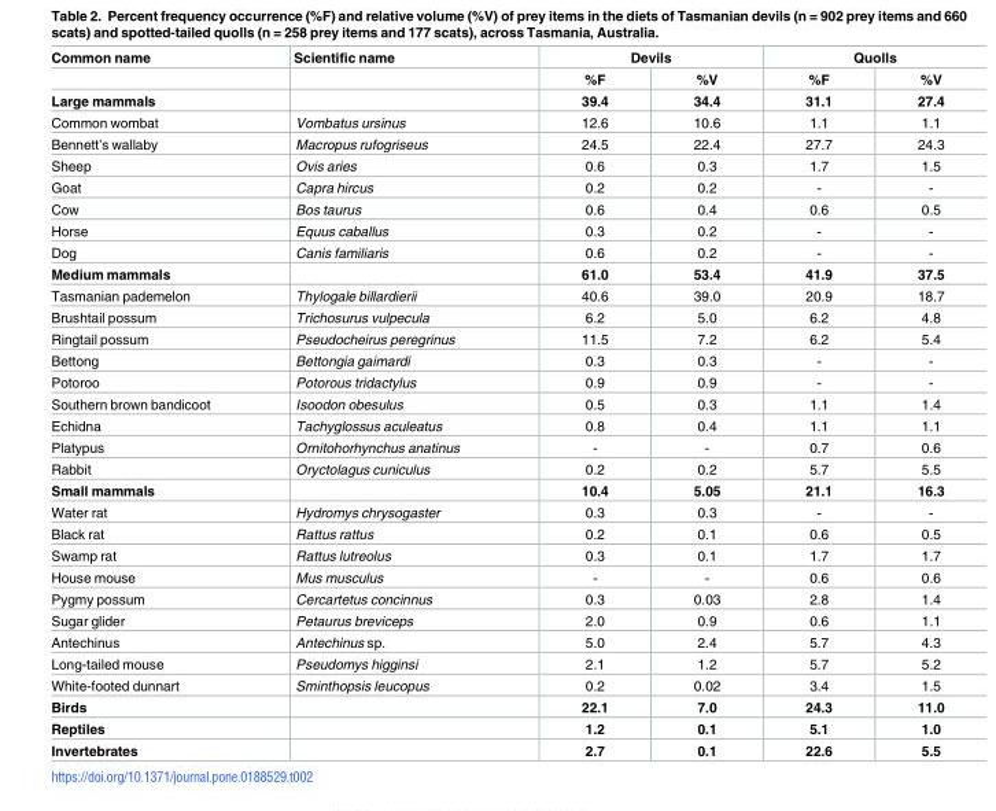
<table><thead><tr><td rowspan="2">Common name</td><td rowspan="2">Scientific name</td><td colspan="2">Devils</td><td colspan="2">Quolls</td></tr><tr><td>%F</td><td>%V</td><td>%F</td><td>%V</td></tr></thead><tbody><tr><td>Large mammals</td><td></td><td>39.4</td><td>34.4</td><td>31.1</td><td>27.4</td></tr><tr><td>Common wombat</td><td>Vombatus ursinus</td><td>12.6</td><td>10.6</td><td>1.1</td><td>1.1</td></tr><tr><td>Bennett’s wallaby</td><td>Macropus rufogriseus</td><td>24.5</td><td>22.4</td><td>27.7</td><td>24.3</td></tr><tr><td>Sheep</td><td>Ovis aries</td><td>0.6</td><td>0.3</td><td>1.7</td><td>1.5</td></tr><tr><td>Goat</td><td>Capra hircus</td><td>0.2</td><td>0.2</td><td>-</td><td>-</td></tr><tr><td>Cow</td><td>Bos taurus</td><td>0.6</td><td>0.4</td><td>0.6</td><td>0.5</td></tr><tr><td>Horse</td><td>Equus caballus</td><td>0.3</td><td>0.2</td><td>-</td><td>-</td></tr><tr><td>Dog</td><td>Canis familiaris</td><td>0.6</td><td>0.2</td><td>-</td><td>-</td></tr><tr><td>Medium mammals</td><td></td><td>61.0</td><td>53.4</td><td>41.9</td><td>37.5</td></tr><tr><td>Tasmanian pademelon</td><td>Thylogale billardierii</td><td>40.6</td><td>39.0</td><td>20.9</td><td>18.7</td></tr><tr><td>Brushtail possum</td><td>Trichosurus vulpecula</td><td>6.2</td><td>5.0</td><td>6.2</td><td>4.8</td></tr><tr><td>Ringtail possum</td><td>Pseudocheirus peregrinus</td><td>11.5</td><td>7.2</td><td>6.2</td><td>5.4</td></tr><tr><td>Bettong</td><td>Bettongia gaimardi</td><td>0.3</td><td>0.3</td><td>-</td><td>-</td></tr><tr><td>Potoroo</td><td>Potorous tridactylus</td><td>0.9</td><td>0.9</td><td>-</td><td>-</td></tr><tr><td>Southern brown bandicoot</td><td>Isoodon obesulus</td><td>0.5</td><td>0.3</td><td>1.1</td><td>1.4</td></tr><tr><td>Echidna</td><td>Tachyglossus aculeatus</td><td>0.8</td><td>0.4</td><td>1.1</td><td>1.1</td></tr><tr><td>Platypus</td><td>Ornitohorhynchus anatinus</td><td>-</td><td>-</td><td>0.7</td><td>0.6</td></tr><tr><td>Rabbit</td><td>Oryctolagus cuniculus</td><td>0.2</td><td>0.2</td><td>5.7</td><td>5.5</td></tr><tr><td>Small mammals</td><td></td><td>10.4</td><td>5.05</td><td>21.1</td><td>16.3</td></tr><tr><td>Water rat</td><td>Hydromys chrysogaster</td><td>0.3</td><td>0.3</td><td>-</td><td>-</td></tr><tr><td>Black rat</td><td>Rattus rattus</td><td>0.2</td><td>0.1</td><td>0.6</td><td>0.5</td></tr><tr><td>Swamp rat</td><td>Rattus lutreolus</td><td>0.3</td><td>0.1</td><td>1.7</td><td>1.7</td></tr><tr><td>House mouse</td><td>Mus musculus</td><td>-</td><td>-</td><td>0.6</td><td>0.6</td></tr><tr><td>Pygmy possum</td><td>Cercartetus concinnus</td><td>0.3</td><td>0.03</td><td>2.8</td><td>1.4</td></tr><tr><td>Sugar glider</td><td>Petaurus breviceps</td><td>2.0</td><td>0.9</td><td>0.6</td><td>1.1</td></tr><tr><td>Antechinus</td><td>Antechinus sp.</td><td>5.0</td><td>2.4</td><td>5.7</td><td>4.3</td></tr><tr><td>Long-tailed mouse</td><td>Pseudomys higginsi</td><td>2.1</td><td>1.2</td><td>5.7</td><td>5.2</td></tr><tr><td>White-footed dunnart</td><td>Sminthopsis leucopus</td><td>0.2</td><td>0.02</td><td>3.4</td><td>1.5</td></tr><tr><td>Birds</td><td></td><td>22.1</td><td>7.0</td><td>24.3</td><td>11.0</td></tr><tr><td>Reptiles</td><td></td><td>1.2</td><td>0.1</td><td>5.1</td><td>1.0</td></tr><tr><td>Invertebrates</td><td></td><td>2.7</td><td>0.1</td><td>22.6</td><td>5.5</td></tr></tbody></table>